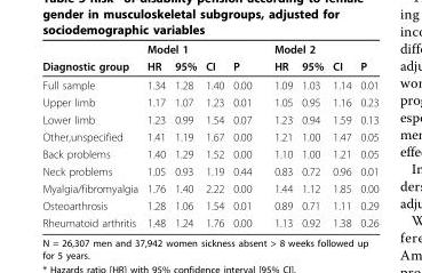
<table><thead><tr><td rowspan="2">Diagnostic group</td><td colspan="4">Model 1</td><td colspan="4">Model 2</td></tr><tr><td>HR</td><td>95%</td><td>CI</td><td>P</td><td>HR</td><td>95%</td><td>CI</td><td>P</td></tr></thead><tbody><tr><td>Full sample</td><td>1.34</td><td>1.28</td><td>1.40</td><td>0.00</td><td>1.09</td><td>1.03</td><td>1.14</td><td>0.01</td></tr><tr><td>Upper limb</td><td>1.17</td><td>1.07</td><td>1.23</td><td>0.01</td><td>1.05</td><td>0.95</td><td>1.16</td><td>0.23</td></tr><tr><td>Lower limb</td><td>1.23</td><td>0.99</td><td>1.54</td><td>0.07</td><td>1.23</td><td>0.94</td><td>1.59</td><td>0.13</td></tr><tr><td>Other,unspecified</td><td>1.41</td><td>1.19</td><td>1.67</td><td>0.00</td><td>1.21</td><td>1.00</td><td>1.47</td><td>0.05</td></tr><tr><td>Back problems</td><td>1.40</td><td>1.29</td><td>1.52</td><td>0.00</td><td>1.10</td><td>1.00</td><td>1.21</td><td>0.05</td></tr><tr><td>Neck problems</td><td>1.05</td><td>0.93</td><td>1.19</td><td>0.44</td><td>0.83</td><td>0.72</td><td>0.96</td><td>0.01</td></tr><tr><td>Myalgia/fibromyalgia</td><td>1.76</td><td>1.40</td><td>2.22</td><td>0.00</td><td>1.44</td><td>1.12</td><td>1.85</td><td>0.00</td></tr><tr><td>Osteoarthrosis</td><td>1.28</td><td>1.06</td><td>1.54</td><td>0.01</td><td>0.89</td><td>0.71</td><td>1.11</td><td>0.29</td></tr><tr><td>Rheumatoid arthritis</td><td>1.48</td><td>1.24</td><td>1.76</td><td>0.00</td><td>1.13</td><td>0.92</td><td>1.38</td><td>0.26</td></tr></tbody></table>